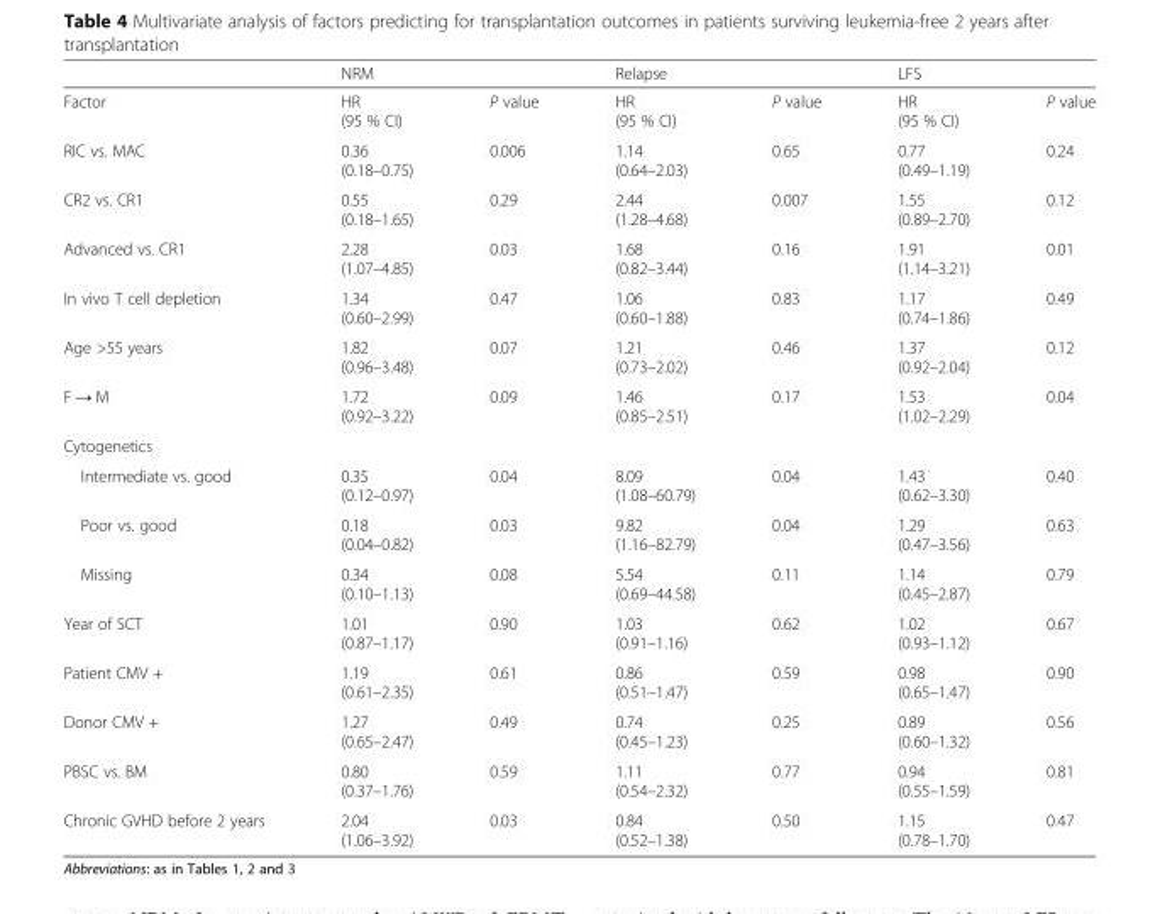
<table><thead><tr><td rowspan="2">Factor</td><td colspan="2">NRM</td><td colspan="2">Relapse</td><td colspan="2">LFS</td></tr><tr><td>HR (95 % CI)</td><td>P value</td><td>HR (95 % CI)</td><td>P value</td><td>HR (95 % CI)</td><td>P value</td></tr></thead><tbody><tr><td>RIC vs. MAC</td><td>0.36 (0.18–0.75)</td><td>0.006</td><td>1.14 (0.64–2.03)</td><td>0.65</td><td>0.77 (0.49–1.19)</td><td>0.24</td></tr><tr><td>CR2 vs. CR1</td><td>0.55 (0.18–1.65)</td><td>0.29</td><td>2.44 (1.28–4.68)</td><td>0.007</td><td>1.55 (0.89–2.70)</td><td>0.12</td></tr><tr><td>Advanced vs. CR1</td><td>2.28 (1.07–4.85)</td><td>0.03</td><td>1.68 (0.82–3.44)</td><td>0.16</td><td>1.91 (1.14–3.21)</td><td>0.01</td></tr><tr><td>In vivo T cell depletion</td><td>1.34 (0.60–2.99)</td><td>0.47</td><td>1.06 (0.60–1.88)</td><td>0.83</td><td>1.17 (0.74–1.86)</td><td>0.49</td></tr><tr><td>Age &gt;55 years</td><td>1.82 (0.96–3.48)</td><td>0.07</td><td>1.21 (0.73–2.02)</td><td>0.46</td><td>1.37 (0.92–2.04)</td><td>0.12</td></tr><tr><td>F → M</td><td>1.72 (0.92–3.22)</td><td>0.09</td><td>1.46 (0.85–2.51)</td><td>0.17</td><td>1.53 (1.02–2.29)</td><td>0.04</td></tr><tr><td colspan="7">Cytogenetics</td></tr><tr><td>Intermediate vs. good</td><td>0.35 (0.12–0.97)</td><td>0.04</td><td>8.09 (1.08–60.79)</td><td>0.04</td><td>1.43 (0.62–3.30)</td><td>0.40</td></tr><tr><td>Poor vs. good</td><td>0.18 (0.04–0.82)</td><td>0.03</td><td>9.82 (1.16–82.79)</td><td>0.04</td><td>1.29 (0.47–3.56)</td><td>0.63</td></tr><tr><td>Missing</td><td>0.34 (0.10–1.13)</td><td>0.08</td><td>5.54 (0.69–44.58)</td><td>0.11</td><td>1.14 (0.45–2.87)</td><td>0.79</td></tr><tr><td>Year of SCT</td><td>1.01 (0.87–1.17)</td><td>0.90</td><td>1.03 (0.91–1.16)</td><td>0.62</td><td>1.02 (0.93–1.12)</td><td>0.67</td></tr><tr><td>Patient CMV +</td><td>1.19 (0.61–2.35)</td><td>0.61</td><td>0.86 (0.51–1.47)</td><td>0.59</td><td>0.98 (0.65–1.47)</td><td>0.90</td></tr><tr><td>Donor CMV +</td><td>1.27 (0.65–2.47)</td><td>0.49</td><td>0.74 (0.45–1.23)</td><td>0.25</td><td>0.89 (0.60–1.32)</td><td>0.56</td></tr><tr><td>PBSC vs. BM</td><td>0.80 (0.37–1.76)</td><td>0.59</td><td>1.11 (0.54–2.32)</td><td>0.77</td><td>0.94 (0.55–1.59)</td><td>0.81</td></tr><tr><td>Chronic GVHD before 2 years</td><td>2.04 (1.06–3.92)</td><td>0.03</td><td>0.84 (0.52–1.38)</td><td>0.50</td><td>1.15 (0.78–1.70)</td><td>0.47</td></tr></tbody></table>